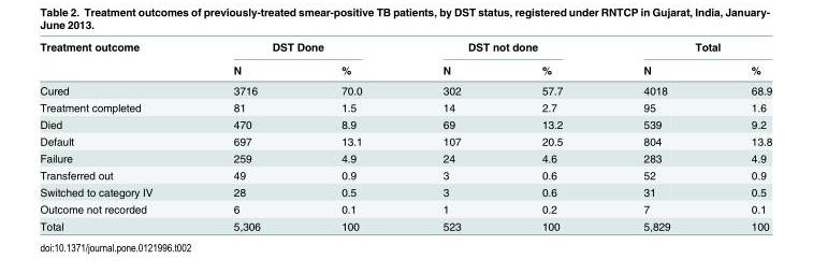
<table><thead><tr><td rowspan="2">Treatment outcome</td><td colspan="2">DST Done</td><td colspan="2">DST not done</td><td colspan="2">Total</td></tr><tr><td>N</td><td>%</td><td>N</td><td>%</td><td>N</td><td>%</td></tr></thead><tbody><tr><td>Cured</td><td>3716</td><td>70.0</td><td>302</td><td>57.7</td><td>4018</td><td>68.9</td></tr><tr><td>Treatment completed</td><td>81</td><td>1.5</td><td>14</td><td>2.7</td><td>95</td><td>1.6</td></tr><tr><td>Died</td><td>470</td><td>8.9</td><td>69</td><td>13.2</td><td>539</td><td>9.2</td></tr><tr><td>Default</td><td>697</td><td>13.1</td><td>107</td><td>20.5</td><td>804</td><td>13.8</td></tr><tr><td>Failure</td><td>259</td><td>4.9</td><td>24</td><td>4.6</td><td>283</td><td>4.9</td></tr><tr><td>Transferred out</td><td>49</td><td>0.9</td><td>3</td><td>0.6</td><td>52</td><td>0.9</td></tr><tr><td>Switched to category IV</td><td>28</td><td>0.5</td><td>3</td><td>0.6</td><td>31</td><td>0.5</td></tr><tr><td>Outcome not recorded</td><td>6</td><td>0.1</td><td>1</td><td>0.2</td><td>7</td><td>0.1</td></tr><tr><td>Total</td><td>5,306</td><td>100</td><td>523</td><td>100</td><td>5,829</td><td>100</td></tr></tbody></table>